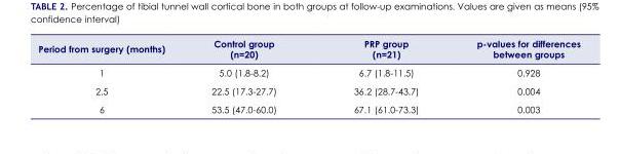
<table><thead><tr><td>Period from surgery (months)</td><td>Control group (n=20)</td><td>PRP group (n=21)</td><td>p-values for differences between groups</td></tr></thead><tbody><tr><td>1</td><td>5.0 (1.8-8.2)</td><td>6.7 (1.8-11.5)</td><td>0.928</td></tr><tr><td>2.5</td><td>22.5 (17.3-27.7)</td><td>36.2 (28.7-43.7)</td><td>0.004</td></tr><tr><td>6</td><td>53.5 (47.0-60.0)</td><td>67.1 (61.0-73.3)</td><td>0.003</td></tr></tbody></table>